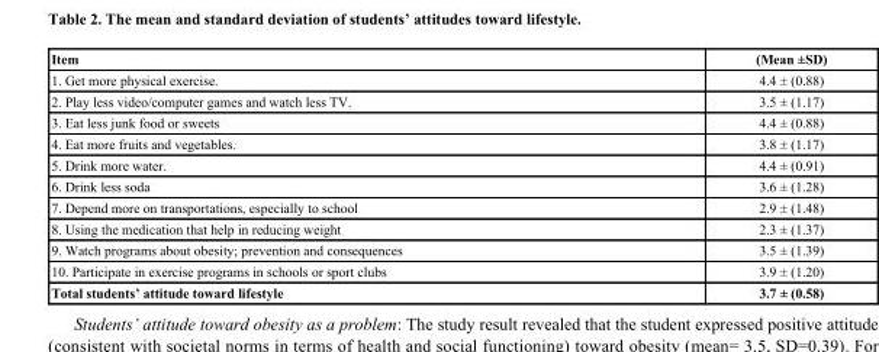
<table><thead><tr><td>Item</td><td>(Mean ±SD)</td></tr></thead><tbody><tr><td>1. Get more physical exercise.</td><td>4.4 ± (0.88)</td></tr><tr><td>2. Play less video/computer games and watch less TV.</td><td>3.5 ± (1.17)</td></tr><tr><td>3. Eat less junk food or sweets</td><td>4.4 ± (0.88)</td></tr><tr><td>4. Eat more fruits and vegetables.</td><td>3.8 ± (1.17)</td></tr><tr><td>5. Drink more water.</td><td>4.4 ± (0.91)</td></tr><tr><td>6. Drink less soda</td><td>3.6 ± (1.28)</td></tr><tr><td>7. Depend more on transportations, especially to school</td><td>2.9 ± (1.48)</td></tr><tr><td>8. Using the medication that help in reducing weight</td><td>2.3 ± (1.37)</td></tr><tr><td>9. Watch programs about obesity; prevention and consequences</td><td>3.5 ± (1.39)</td></tr><tr><td>10. Participate in exercise programs in schools or sport clubs</td><td>3.9 ± (1.20)</td></tr><tr><td>Total students’ attitude toward lifestyle</td><td>3.7 ± (0.58)</td></tr></tbody></table>